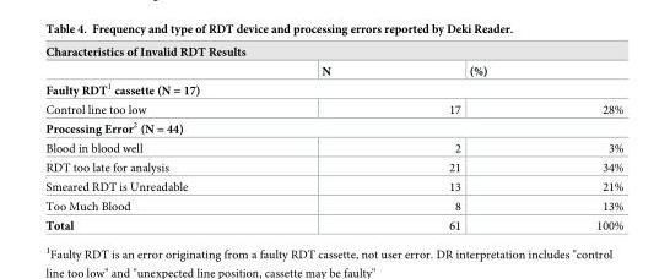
<table><thead><tr><td colspan="3">Characteristics of Invalid RDT Results</td></tr><tr><td></td><td>N</td><td>(%)</td></tr></thead><tbody><tr><td colspan="3">Faulty RDT<sup>1</sup> cassette (N = 17)</td></tr><tr><td>Control line too low</td><td>17</td><td>28%</td></tr><tr><td colspan="3">Processing Error<sup>2</sup> (N = 44)</td></tr><tr><td>Blood in blood well</td><td>2</td><td>3%</td></tr><tr><td>RDT too late for analysis</td><td>21</td><td>34%</td></tr><tr><td>Smeared RDT is Unreadable</td><td>13</td><td>21%</td></tr><tr><td>Too Much Blood</td><td>8</td><td>13%</td></tr><tr><td>Total</td><td>61</td><td>100%</td></tr></tbody></table>